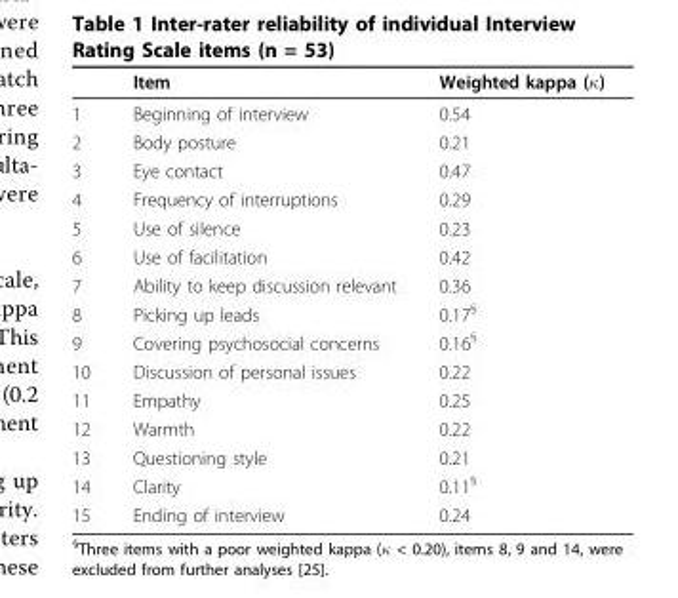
<table><thead><tr><td></td><td>Item</td><td>Weighted kappa (κ)</td></tr></thead><tbody><tr><td>1</td><td>Beginning of interview</td><td>0.54</td></tr><tr><td>2</td><td>Body posture</td><td>0.21</td></tr><tr><td>3</td><td>Eye contact</td><td>0.47</td></tr><tr><td>4</td><td>Frequency of interruptions</td><td>0.29</td></tr><tr><td>5</td><td>Use of silence</td><td>0.23</td></tr><tr><td>6</td><td>Use of facilitation</td><td>0.42</td></tr><tr><td>7</td><td>Ability to keep discussion relevant</td><td>0.36</td></tr><tr><td>8</td><td>Picking up leads</td><td>0.17<sup>§</sup></td></tr><tr><td>9</td><td>Covering psychosocial concerns</td><td>0.16<sup>§</sup></td></tr><tr><td>10</td><td>Discussion of personal issues</td><td>0.22</td></tr><tr><td>11</td><td>Empathy</td><td>0.25</td></tr><tr><td>12</td><td>Warmth</td><td>0.22</td></tr><tr><td>13</td><td>Questioning style</td><td>0.21</td></tr><tr><td>14</td><td>Clarity</td><td>0.11<sup>§</sup></td></tr><tr><td>15</td><td>Ending of interview</td><td>0.24</td></tr></tbody></table>